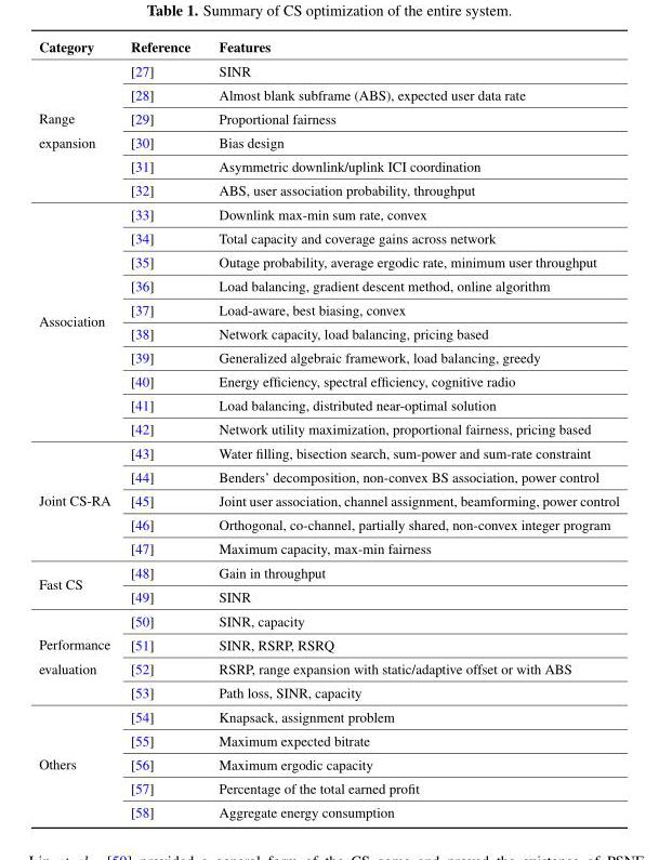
<table><thead><tr><td>Category</td><td>Reference</td><td>Features</td></tr></thead><tbody><tr><td rowspan="6">Range expansion</td><td>[27]</td><td>SINR</td></tr><tr><td>[28]</td><td>Almost blank subframe (ABS), expected user data rate</td></tr><tr><td>[29]</td><td>Proportional fairness</td></tr><tr><td>[30]</td><td>Bias design</td></tr><tr><td>[31]</td><td>Asymmetric downlink/uplink ICI coordination</td></tr><tr><td>[32]</td><td>ABS, user association probability, throughput</td></tr><tr><td rowspan="10">Association</td><td>[33]</td><td>Downlink max-min sum rate, convex</td></tr><tr><td>[34]</td><td>Total capacity and coverage gains across network</td></tr><tr><td>[35]</td><td>Outage probability, average ergodic rate, minimum user throughput</td></tr><tr><td>[36]</td><td>Load balancing, gradient descent method, online algorithm</td></tr><tr><td>[37]</td><td>Load-aware, best biasing, convex</td></tr><tr><td>[38]</td><td>Network capacity, load balancing, pricing based</td></tr><tr><td>[39]</td><td>Generalized algebraic framework, load balancing, greedy</td></tr><tr><td>[40]</td><td>Energy efficiency, spectral efficiency, cognitive radio</td></tr><tr><td>[41]</td><td>Load balancing, distributed near-optimal solution</td></tr><tr><td>[42]</td><td>Network utility maximization, proportional fairness, pricing based</td></tr><tr><td rowspan="5">Joint CS-RA</td><td>[43]</td><td>Water filling, bisection search, sum-power and sum-rate constraint</td></tr><tr><td>[44]</td><td>Benders’ decomposition, non-convex BS association, power control</td></tr><tr><td>[45]</td><td>Joint user association, channel assignment, beamforming, power control</td></tr><tr><td>[46]</td><td>Orthogonal, co-channel, partially shared, non-convex integer program</td></tr><tr><td>[47]</td><td>Maximum capacity, max-min fairness</td></tr><tr><td rowspan="2">Fast CS</td><td>[48]</td><td>Gain in throughput</td></tr><tr><td>[49]</td><td>SINR</td></tr><tr><td rowspan="4">Performance evaluation</td><td>[50]</td><td>SINR, capacity</td></tr><tr><td>[51]</td><td>SINR, RSRP, RSRQ</td></tr><tr><td>[52]</td><td>RSRP, range expansion with static/adaptive offset or with ABS</td></tr><tr><td>[53]</td><td>Path loss, SINR, capacity</td></tr><tr><td rowspan="5">Others</td><td>[54]</td><td>Knapsack, assignment problem</td></tr><tr><td>[55]</td><td>Maximum expected bitrate</td></tr><tr><td>[56]</td><td>Maximum ergodic capacity</td></tr><tr><td>[57]</td><td>Percentage of the total earned profit</td></tr><tr><td>[58]</td><td>Aggregate energy consumption</td></tr></tbody></table>